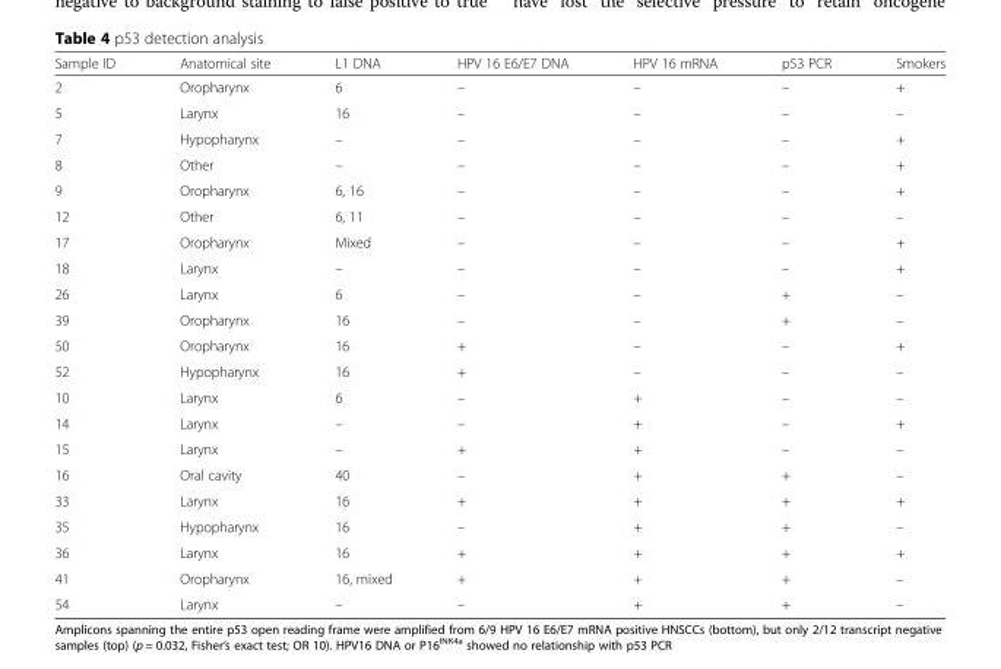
<table><thead><tr><td>Sample ID</td><td>Anatomical site</td><td>L1 DNA</td><td>HPV 16 E6/E7 DNA</td><td>HPV 16 mRNA</td><td>p53 PCR</td><td>Smokers</td></tr></thead><tbody><tr><td>2</td><td>Oropharynx</td><td>6</td><td>–</td><td>–</td><td>–</td><td>+</td></tr><tr><td>5</td><td>Larynx</td><td>16</td><td>–</td><td>–</td><td>–</td><td>–</td></tr><tr><td>7</td><td>Hypopharynx</td><td>–</td><td>–</td><td>–</td><td>–</td><td>+</td></tr><tr><td>8</td><td>Other</td><td>–</td><td>–</td><td>–</td><td>–</td><td>+</td></tr><tr><td>9</td><td>Oropharynx</td><td>6, 16</td><td>–</td><td>–</td><td>–</td><td>+</td></tr><tr><td>12</td><td>Other</td><td>6, 11</td><td>–</td><td>–</td><td>–</td><td>–</td></tr><tr><td>17</td><td>Oropharynx</td><td>Mixed</td><td>–</td><td>–</td><td>–</td><td>+</td></tr><tr><td>18</td><td>Larynx</td><td>–</td><td>–</td><td>–</td><td>–</td><td>+</td></tr><tr><td>26</td><td>Larynx</td><td>6</td><td>–</td><td>–</td><td>+</td><td>–</td></tr><tr><td>39</td><td>Oropharynx</td><td>16</td><td>–</td><td>–</td><td>+</td><td>–</td></tr><tr><td>50</td><td>Oropharynx</td><td>16</td><td>+</td><td>–</td><td>–</td><td>+</td></tr><tr><td>52</td><td>Hypopharynx</td><td>16</td><td>+</td><td>–</td><td>–</td><td>–</td></tr><tr><td>10</td><td>Larynx</td><td>6</td><td>–</td><td>+</td><td>–</td><td>–</td></tr><tr><td>14</td><td>Larynx</td><td>–</td><td>–</td><td>+</td><td>–</td><td>+</td></tr><tr><td>15</td><td>Larynx</td><td>–</td><td>+</td><td>+</td><td>–</td><td>–</td></tr><tr><td>16</td><td>Oral cavity</td><td>40</td><td>–</td><td>+</td><td>+</td><td>–</td></tr><tr><td>33</td><td>Larynx</td><td>16</td><td>+</td><td>+</td><td>+</td><td>+</td></tr><tr><td>35</td><td>Hypopharynx</td><td>16</td><td>–</td><td>+</td><td>+</td><td>–</td></tr><tr><td>36</td><td>Larynx</td><td>16</td><td>+</td><td>+</td><td>+</td><td>+</td></tr><tr><td>41</td><td>Oropharynx</td><td>16, mixed</td><td>+</td><td>+</td><td>+</td><td>–</td></tr><tr><td>54</td><td>Larynx</td><td>–</td><td>–</td><td>+</td><td>+</td><td>–</td></tr></tbody></table>